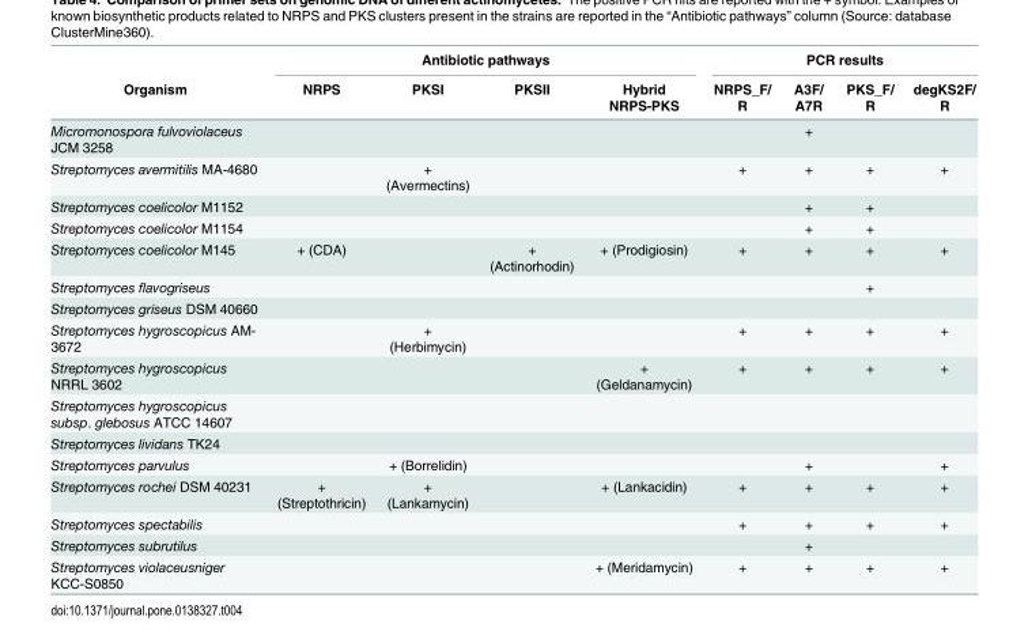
<table><thead><tr><td rowspan="2">Organism</td><td colspan="4">Antibiotic pathways</td><td colspan="4">PCR results</td></tr><tr><td>NRPS</td><td>PKSI</td><td>PKSII</td><td>Hybrid NRPS-PKS</td><td>NRPS_F/ R</td><td>A3F/ A7R</td><td>PKS_F/ R</td><td>degKS2F/ R</td></tr></thead><tbody><tr><td>Micromonospora fulvoviolaceus JCM 3258</td><td></td><td></td><td></td><td></td><td></td><td>+</td><td></td><td></td></tr><tr><td>Streptomyces avermitilis MA-4680</td><td></td><td>+ (Avermectins)</td><td></td><td></td><td>+</td><td>+</td><td>+</td><td>+</td></tr><tr><td>Streptomyces coelicolor M1152</td><td></td><td></td><td></td><td></td><td></td><td>+</td><td>+</td><td></td></tr><tr><td>Streptomyces coelicolor M1154</td><td></td><td></td><td></td><td></td><td></td><td>+</td><td>+</td><td></td></tr><tr><td>Streptomyces coelicolor M145</td><td>+ (CDA)</td><td></td><td>+ (Actinorhodin)</td><td>+ (Prodigiosin)</td><td>+</td><td>+</td><td>+</td><td>+</td></tr><tr><td>Streptomyces flavogriseus</td><td></td><td></td><td></td><td></td><td></td><td></td><td>+</td><td></td></tr><tr><td colspan="9">Streptomyces griseus DSM 40660</td></tr><tr><td>Streptomyces hygroscopicus AM- 3672</td><td></td><td>+ (Herbimycin)</td><td></td><td></td><td>+</td><td>+</td><td>+</td><td>+</td></tr><tr><td>Streptomyces hygroscopicus NRRL 3602</td><td></td><td></td><td></td><td>+ (Geldanamycin)</td><td>+</td><td>+</td><td>+</td><td>+</td></tr><tr><td colspan="9">Streptomyces hygroscopicus subsp. glebosus ATCC 14607</td></tr><tr><td colspan="9">Streptomyces lividans TK24</td></tr><tr><td>Streptomyces parvulus</td><td></td><td>+ (Borrelidin)</td><td></td><td></td><td></td><td>+</td><td></td><td>+</td></tr><tr><td>Streptomyces rochei DSM 40231</td><td>+ (Streptothricin)</td><td>+ (Lankamycin)</td><td></td><td>+ (Lankacidin)</td><td>+</td><td>+</td><td>+</td><td>+</td></tr><tr><td>Streptomyces spectabilis</td><td></td><td></td><td></td><td></td><td>+</td><td>+</td><td>+</td><td>+</td></tr><tr><td>Streptomyces subrutilus</td><td></td><td></td><td></td><td></td><td></td><td>+</td><td></td><td></td></tr><tr><td>Streptomyces violaceusniger KCC-S0850</td><td></td><td></td><td></td><td>+ (Meridamycin)</td><td>+</td><td>+</td><td>+</td><td>+</td></tr></tbody></table>